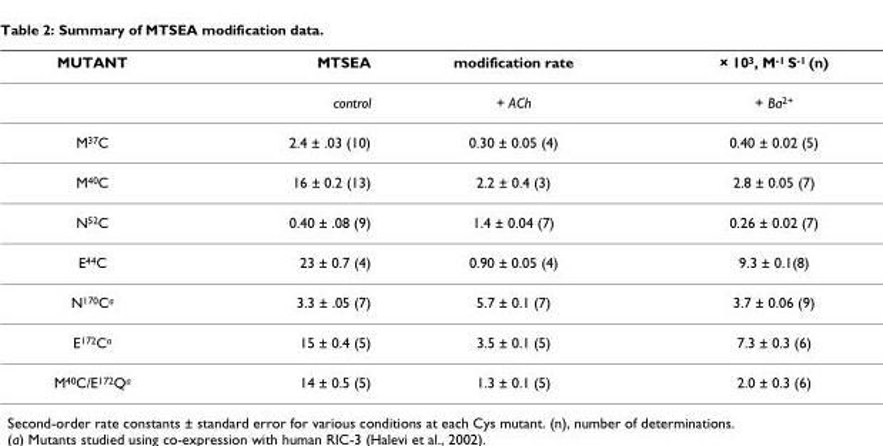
<table><thead><tr><td>MUTANT</td><td>MTSEA</td><td>modification rate</td><td>× 10<sup>3</sup>, M<sup>-1</sup> S<sup>-1</sup> (n)</td></tr></thead><tbody><tr><td></td><td>control</td><td>+ ACh</td><td>+ Ba<sup>2+</sup></td></tr><tr><td>M<sup>37</sup>C</td><td>2.4 ± .03 (10)</td><td>0.30 ± 0.05 (4)</td><td>0.40 ± 0.02 (5)</td></tr><tr><td>M<sup>40</sup>C</td><td>16 ± 0.2 (13)</td><td>2.2 ± 0.4 (3)</td><td>2.8 ± 0.05 (7)</td></tr><tr><td>N<sup>52</sup>C</td><td>0.40 ± .08 (9)</td><td>1.4 ± 0.04 (7)</td><td>0.26 ± 0.02 (7)</td></tr><tr><td>E<sup>44</sup>C</td><td>23 ± 0.7 (4)</td><td>0.90 ± 0.05 (4)</td><td>9.3 ± 0.1(8)</td></tr><tr><td>N<sup>170</sup>C<sup>a</sup></td><td>3.3 ± .05 (7)</td><td>5.7 ± 0.1 (7)</td><td>3.7 ± 0.06 (9)</td></tr><tr><td>E<sup>172</sup>C<sup>a</sup></td><td>15 ± 0.4 (5)</td><td>3.5 ± 0.1 (5)</td><td>7.3 ± 0.3 (6)</td></tr><tr><td>M<sup>40</sup>C/E<sup>172</sup>Q<sup>a</sup></td><td>14 ± 0.5 (5)</td><td>1.3 ± 0.1 (5)</td><td>2.0 ± 0.3 (6)</td></tr></tbody></table>